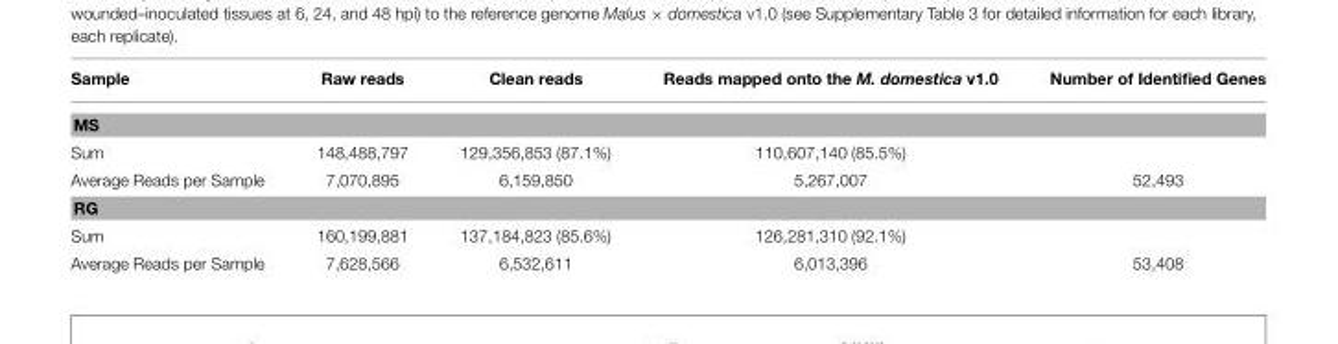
<table><thead><tr><td>Sample</td><td>Raw reads</td><td>Clean reads</td><td>Reads mapped onto the M. domestica v1.0</td><td>Number of Identified Genes</td></tr></thead><tbody><tr><td colspan="5">MS</td></tr><tr><td>Sum</td><td>148,488,797</td><td>129,356,853 (87.1%)</td><td>110,607,140 (85.5%)</td><td></td></tr><tr><td>Average Reads per Sample</td><td>7,070,895</td><td>6,159,850</td><td>5,267,007</td><td>52,493</td></tr><tr><td colspan="5">RG</td></tr><tr><td>Sum</td><td>160,199,881</td><td>137,184,823 (85.6%)</td><td>126,281,310 (92.1%)</td><td></td></tr><tr><td>Average Reads per Sample</td><td>7,628,566</td><td>6,532,611</td><td>6,013,396</td><td>53,408</td></tr></tbody></table>